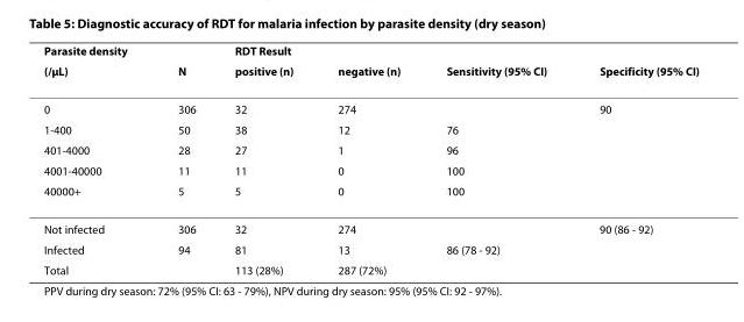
<table><thead><tr><td rowspan="2">Parasite density (/μL)</td><td rowspan="2">N</td><td colspan="2">RDT Result</td><td rowspan="2">Sensitivity (95% CI)</td><td rowspan="2">Specificity (95% CI)</td></tr><tr><td>positive (n)</td><td>negative (n)</td></tr></thead><tbody><tr><td>0</td><td>306</td><td>32</td><td>274</td><td></td><td>90</td></tr><tr><td>1-400</td><td>50</td><td>38</td><td>12</td><td>76</td><td></td></tr><tr><td>401-4000</td><td>28</td><td>27</td><td>1</td><td>96</td><td></td></tr><tr><td>4001-40000</td><td>11</td><td>11</td><td>0</td><td>100</td><td></td></tr><tr><td>40000+</td><td>5</td><td>5</td><td>0</td><td>100</td><td></td></tr><tr><td>Not infected</td><td>306</td><td>32</td><td>274</td><td></td><td>90 (86 - 92)</td></tr><tr><td>Infected</td><td>94</td><td>81</td><td>13</td><td>86 (78 - 92)</td><td></td></tr><tr><td>Total</td><td></td><td>113 (28%)</td><td>287 (72%)</td><td></td><td></td></tr></tbody></table>